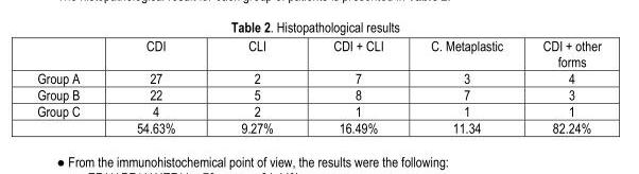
<table><thead><tr><td></td><td>CDI</td><td>CLI</td><td>CDI + CLI</td><td>C. Metaplastic</td><td>CDI + other forms</td></tr></thead><tbody><tr><td>Group A</td><td>27</td><td>2</td><td>7</td><td>3</td><td>4</td></tr><tr><td>Group B</td><td>22</td><td>5</td><td>8</td><td>7</td><td>3</td></tr><tr><td rowspan="2">Group C</td><td>4</td><td>2</td><td>1</td><td>1</td><td>1</td></tr><tr><td>54.63%</td><td>9.27%</td><td>16.49%</td><td>11.34</td><td>82.24%</td></tr></tbody></table>